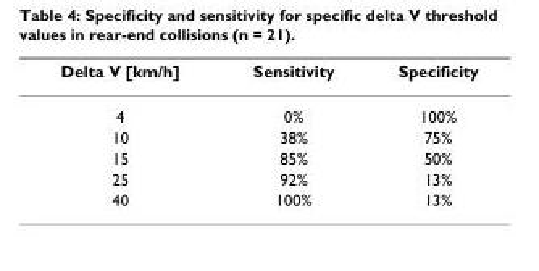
<table><thead><tr><td>Delta V [km/h]</td><td>Sensitivity</td><td>Specificity</td></tr></thead><tbody><tr><td>4</td><td>0%</td><td>100%</td></tr><tr><td>10</td><td>38%</td><td>75%</td></tr><tr><td>15</td><td>85%</td><td>50%</td></tr><tr><td>25</td><td>92%</td><td>13%</td></tr><tr><td>40</td><td>100%</td><td>13%</td></tr></tbody></table>